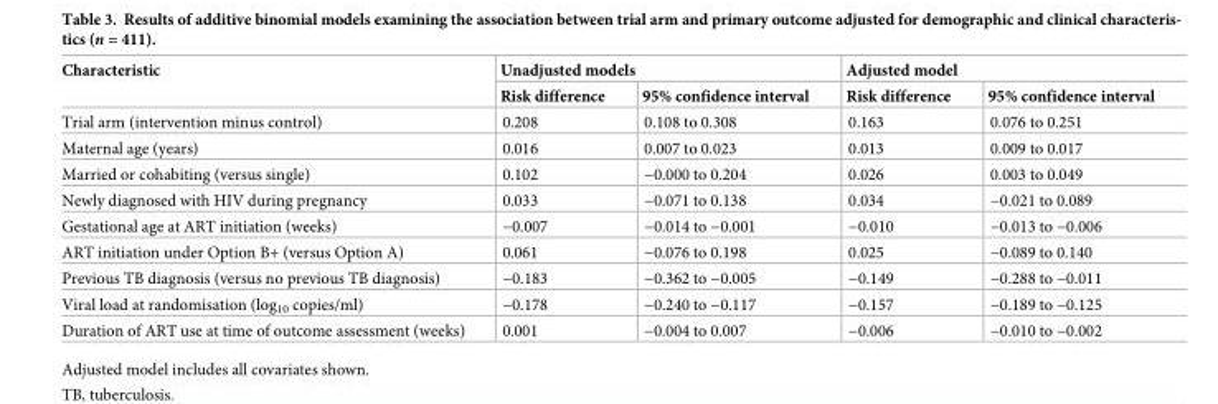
<table><thead><tr><td rowspan="2">Characteristic</td><td colspan="2">Unadjusted models</td><td colspan="2">Adjusted model</td></tr><tr><td>Risk difference</td><td>95% confidence interval</td><td>Risk difference</td><td>95% confidence interval</td></tr></thead><tbody><tr><td>Trial arm (intervention minus control)</td><td>0.208</td><td>0.108 to 0.308</td><td>0.163</td><td>0.076 to 0.251</td></tr><tr><td>Maternal age (years)</td><td>0.016</td><td>0.007 to 0.023</td><td>0.013</td><td>0.009 to 0.017</td></tr><tr><td>Married or cohabiting (versus single)</td><td>0.102</td><td>−0.000 to 0.204</td><td>0.026</td><td>0.003 to 0.049</td></tr><tr><td>Newly diagnosed with HIV during pregnancy</td><td>0.033</td><td>−0.071 to 0.138</td><td>0.034</td><td>−0.021 to 0.089</td></tr><tr><td>Gestational age at ART initiation (weeks)</td><td>−0.007</td><td>−0.014 to −0.001</td><td>−0.010</td><td>−0.013 to −0.006</td></tr><tr><td>ART initiation under Option B+ (versus Option A)</td><td>0.061</td><td>−0.076 to 0.198</td><td>0.025</td><td>−0.089 to 0.140</td></tr><tr><td>Previous TB diagnosis (versus no previous TB diagnosis)</td><td>−0.183</td><td>−0.362 to −0.005</td><td>−0.149</td><td>−0.288 to −0.011</td></tr><tr><td>Viral load at randomisation (log<sub>10</sub> copies/ml)</td><td>−0.178</td><td>−0.240 to −0.117</td><td>−0.157</td><td>−0.189 to −0.125</td></tr><tr><td>Duration of ART use at time of outcome assessment (weeks)</td><td>0.001</td><td>−0.004 to 0.007</td><td>−0.006</td><td>−0.010 to −0.002</td></tr></tbody></table>